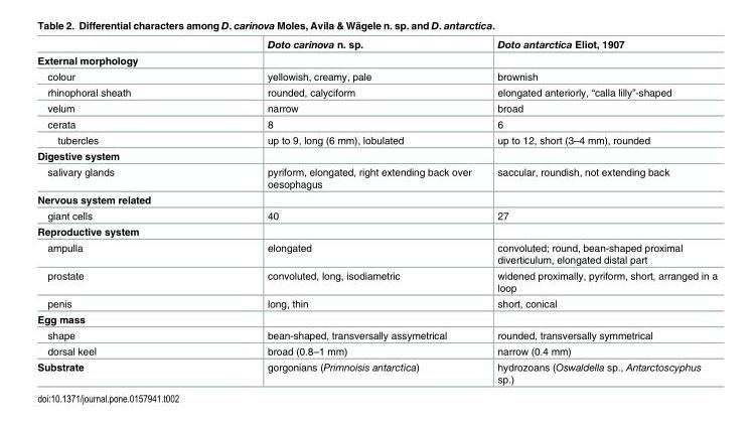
<table><thead><tr><td></td><td>Doto carinova n. sp.</td><td>Doto antarctica Eliot, 1907</td></tr></thead><tbody><tr><td colspan="3">External morphology</td></tr><tr><td>colour</td><td>yellowish, creamy, pale</td><td>brownish</td></tr><tr><td>rhinophoral sheath</td><td>rounded, calyciform</td><td>elongated anteriorly, “calla lilly”-shaped</td></tr><tr><td>velum</td><td>narrow</td><td>broad</td></tr><tr><td>cerata</td><td>8</td><td>6</td></tr><tr><td>tubercles</td><td>up to 9, long (6 mm), lobulated</td><td>up to 12, short (3–4 mm), rounded</td></tr><tr><td colspan="3">Digestive system</td></tr><tr><td>salivary glands</td><td>pyriform, elongated, right extending back over oesophagus</td><td>saccular, roundish, not extending back</td></tr><tr><td colspan="3">Nervous system related</td></tr><tr><td>giant cells</td><td>40</td><td>27</td></tr><tr><td colspan="3">Reproductive system</td></tr><tr><td>ampulla</td><td>elongated</td><td>convoluted; round, bean-shaped proximal diverticulum, elongated distal part</td></tr><tr><td>prostate</td><td>convoluted, long, isodiametric</td><td>widened proximally, pyriform, short, arranged in a loop</td></tr><tr><td>penis</td><td>long, thin</td><td>short, conical</td></tr><tr><td colspan="3">Egg mass</td></tr><tr><td>shape</td><td>bean-shaped, transversally assymetrical</td><td>rounded, transversally symmetrical</td></tr><tr><td>dorsal keel</td><td>broad (0.8–1 mm)</td><td>narrow (0.4 mm)</td></tr><tr><td>Substrate</td><td>gorgonians (Primnoisis antarctica)</td><td>hydrozoans (Oswaldella sp., Antarctoscyphus sp.)</td></tr></tbody></table>